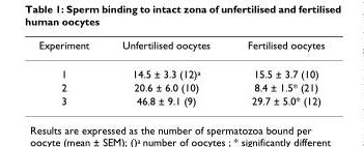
<table><thead><tr><td>Experiment</td><td>Unfertilised oocytes</td><td>Fertilised oocytes</td></tr></thead><tbody><tr><td>1</td><td>14.5 ± 3.3 (12)<sup>a</sup></td><td>15.5 ± 3.7 (10)</td></tr><tr><td>2</td><td>20.6 ± 6.0 (10)</td><td>8.4 ± 1.5* (21)</td></tr><tr><td>3</td><td>46.8 ± 9.1 (9)</td><td>29.7 ± 5.0* (12)</td></tr></tbody></table>